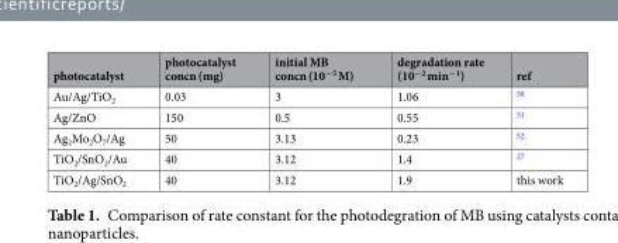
<table><thead><tr><td>photocatalyst</td><td>photocatalyst concn (mg)</td><td>initial MB concn (10<sup>−5</sup> M)</td><td>degradation rate (10<sup>−2</sup> min<sup>−1</sup>)</td><td>ref</td></tr></thead><tbody><tr><td>Au/Ag/TiO<sub>2</sub></td><td>0.03</td><td>3</td><td>1.06</td><td><sup>50</sup></td></tr><tr><td>Ag/ZnO</td><td>150</td><td>0.5</td><td>0.55</td><td><sup>51</sup></td></tr><tr><td>Ag<sub>2</sub>Mo<sub>2</sub>O<sub>7</sub>/Ag</td><td>50</td><td>3.13</td><td>0.23</td><td><sup>52</sup></td></tr><tr><td>TiO<sub>2</sub>/SnO<sub>2</sub>/Au</td><td>40</td><td>3.12</td><td>1.4</td><td><sup>27</sup></td></tr><tr><td>TiO<sub>2</sub>/Ag/SnO<sub>2</sub></td><td>40</td><td>3.12</td><td>1.9</td><td>this work</td></tr></tbody></table>